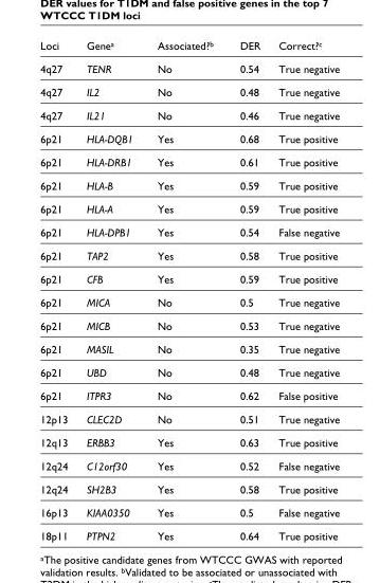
<table><thead><tr><td>Loci</td><td>Gene<sup>a</sup></td><td>Associated?<sup>b</sup></td><td>DER</td><td>Correct?<sup>c</sup></td></tr></thead><tbody><tr><td>4q27</td><td>TENR</td><td>No</td><td>0.54</td><td>True negative</td></tr><tr><td>4q27</td><td>IL2</td><td>No</td><td>0.48</td><td>True negative</td></tr><tr><td>4q27</td><td>IL21</td><td>No</td><td>0.46</td><td>True negative</td></tr><tr><td>6p21</td><td>HLA-DQB1</td><td>Yes</td><td>0.68</td><td>True positive</td></tr><tr><td>6p21</td><td>HLA-DRB1</td><td>Yes</td><td>0.61</td><td>True positive</td></tr><tr><td>6p21</td><td>HLA-B</td><td>Yes</td><td>0.59</td><td>True positive</td></tr><tr><td>6p21</td><td>HLA-A</td><td>Yes</td><td>0.59</td><td>True positive</td></tr><tr><td>6p21</td><td>HLA-DPB1</td><td>Yes</td><td>0.54</td><td>False negative</td></tr><tr><td>6p21</td><td>TAP2</td><td>Yes</td><td>0.58</td><td>True positive</td></tr><tr><td>6p21</td><td>CFB</td><td>Yes</td><td>0.59</td><td>True positive</td></tr><tr><td>6p21</td><td>MICA</td><td>No</td><td>0.5</td><td>True negative</td></tr><tr><td>6p21</td><td>MICB</td><td>No</td><td>0.53</td><td>True negative</td></tr><tr><td>6p21</td><td>MASIL</td><td>No</td><td>0.35</td><td>True negative</td></tr><tr><td>6p21</td><td>UBD</td><td>No</td><td>0.48</td><td>True negative</td></tr><tr><td>6p21</td><td>ITPR3</td><td>No</td><td>0.62</td><td>False positive</td></tr><tr><td>12p13</td><td>CLEC2D</td><td>No</td><td>0.51</td><td>True negative</td></tr><tr><td>12q13</td><td>ERBB3</td><td>Yes</td><td>0.63</td><td>True positive</td></tr><tr><td>12q24</td><td>C12orf30</td><td>Yes</td><td>0.52</td><td>False negative</td></tr><tr><td>12q24</td><td>SH2B3</td><td>Yes</td><td>0.58</td><td>True positive</td></tr><tr><td>16p13</td><td>KIAA0350</td><td>Yes</td><td>0.5</td><td>False negative</td></tr><tr><td>18p11</td><td>PTPN2</td><td>Yes</td><td>0.64</td><td>True positive</td></tr></tbody></table>